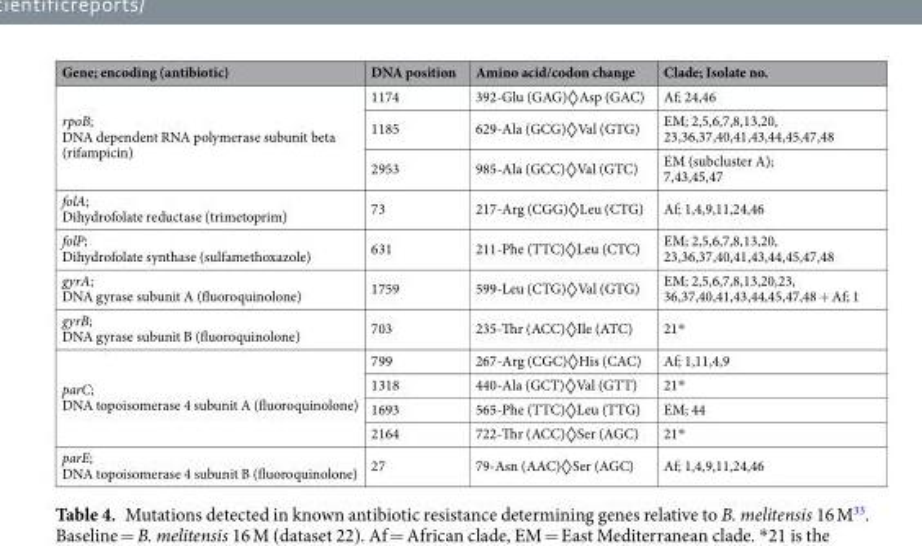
<table><thead><tr><td>Gene; encoding (antibiotic)</td><td>DNA position</td><td>Amino acid/codon change</td><td>Clade; Isolate no.</td></tr></thead><tbody><tr><td rowspan="3">rpoB; DNA dependent RNA polymerase subunit beta (rifampicin)</td><td>1174</td><td>392-Glu (GAG)◊Asp (GAC)</td><td>Af; 24,46</td></tr><tr><td>1185</td><td>629-Ala (GCG)◊Val (GTG)</td><td>EM; 2,5,6,7,8,13,20, 23,36,37,40,41,43,44,45,47,48</td></tr><tr><td>2953</td><td>985-Ala (GCC)◊Val (GTC)</td><td>EM (subcluster A); 7,43,45,47</td></tr><tr><td>folA; Dihydrofolate reductase (trimetoprim)</td><td>73</td><td>217-Arg (CGG)◊Leu (CTG)</td><td>Af; 1,4,9,11,24,46</td></tr><tr><td>folP; Dihydrofolate synthase (sulfamethoxazole)</td><td>631</td><td>211-Phe (TTC)◊Leu (CTC)</td><td>EM; 2,5,6,7,8,13,20, 23,36,37,40,41,43,44,45,47,48</td></tr><tr><td>gyrA; DNA gyrase subunit A (fluoroquinolone)</td><td>1759</td><td>599-Leu (CTG)◊Val (GTG)</td><td>EM; 2,5,6,7,8,13,20,23, 36,37,40,41,43,44,45,47,48 + Af; 1</td></tr><tr><td>gyrB; DNA gyrase subunit B (fluoroquinolone)</td><td>703</td><td>235-Thr (ACC)◊Ile (ATC)</td><td>21*</td></tr><tr><td rowspan="4">parC; DNA topoisomerase 4 subunit A (fluoroquinolone)</td><td>799</td><td>267-Arg (CGC)◊His (CAC)</td><td>Af; 1,11,4,9</td></tr><tr><td>1318</td><td>440-Ala (GCT)◊Val (GTT)</td><td>21*</td></tr><tr><td>1693</td><td>565-Phe (TTC)◊Leu (TTG)</td><td>EM; 44</td></tr><tr><td>2164</td><td>722-Thr (ACC)◊Ser (AGC)</td><td>21*</td></tr><tr><td>parE; DNA topoisomerase 4 subunit B (fluoroquinolone)</td><td>27</td><td>79-Asn (AAC)◊Ser (AGC)</td><td>Af; 1,4,9,11,24,46</td></tr></tbody></table>